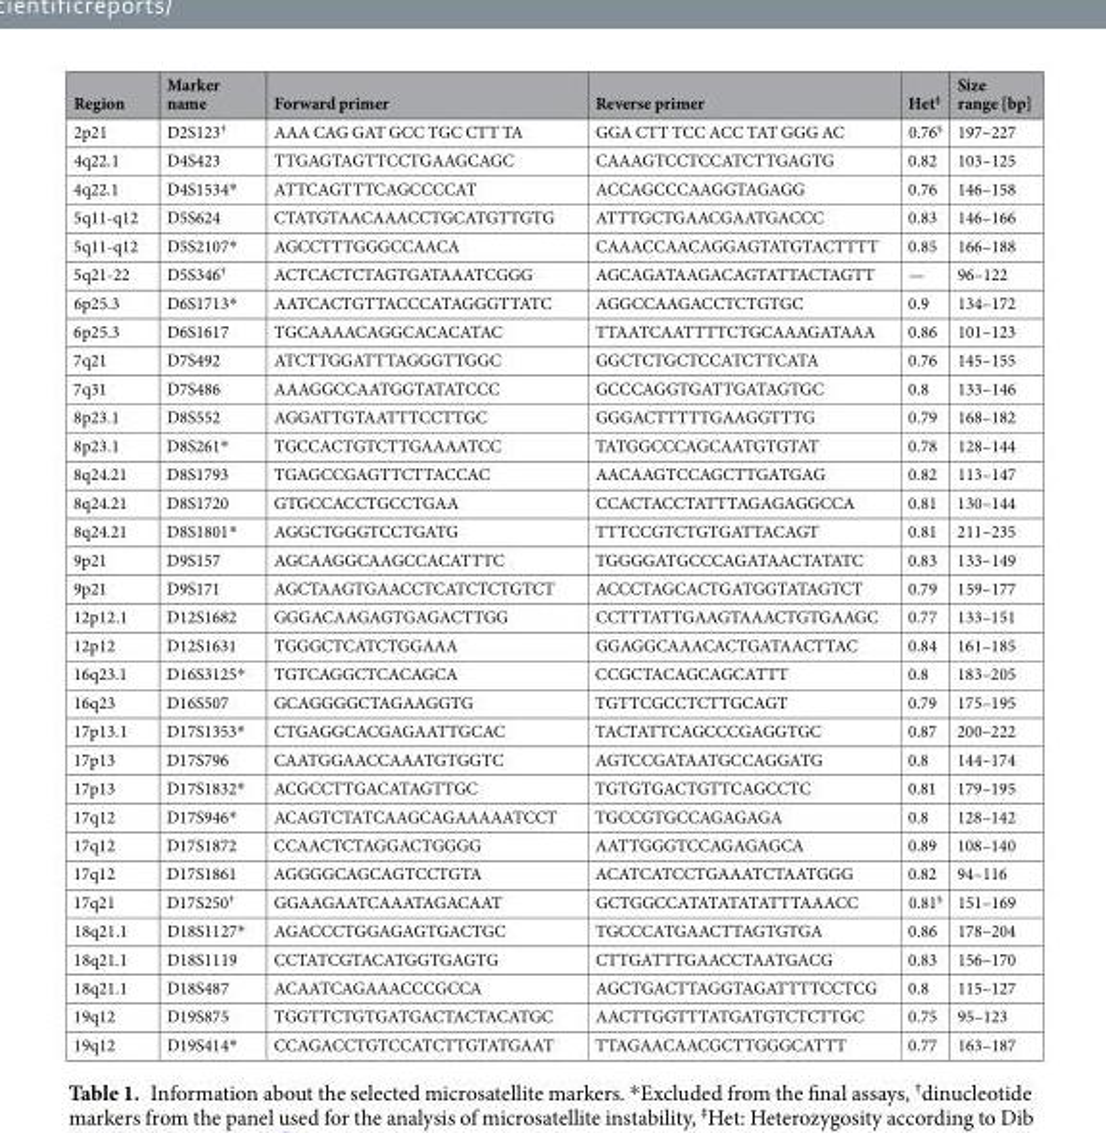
<table><thead><tr><td>Region</td><td>Marker name</td><td>Forward primer</td><td>Reverse primer</td><td>Het<sup>‡</sup></td><td>Size range [bp]</td></tr></thead><tbody><tr><td>2p21</td><td>D2S123<sup>†</sup></td><td>AAA CAG GAT GCC TGC CTT TA</td><td>GGA CTT TCC ACC TAT GGG AC</td><td>0.76<sup>§</sup></td><td>197–227</td></tr><tr><td>4q22.1</td><td>D4S423</td><td>TTGAGTAGTTCCTGAAGCAGC</td><td>CAAAGTCCTCCATCTTGAGTG</td><td>0.82</td><td>103–125</td></tr><tr><td>4q22.1</td><td>D4S1534*</td><td>ATTCAGTTTCAGCCCCAT</td><td>ACCAGCCCAAGGTAGAGG</td><td>0.76</td><td>146–158</td></tr><tr><td>5q11-q12</td><td>D5S624</td><td>CTATGTAACAAACCTGCATGTTGTG</td><td>ATTTGCTGAACGAATGACCC</td><td>0.83</td><td>146–166</td></tr><tr><td>5q11-q12</td><td>D5S2107*</td><td>AGCCTTTGGGCCAACA</td><td>CAAACCAACAGGAGTATGTACTTTT</td><td>0.85</td><td>166–188</td></tr><tr><td>5q21-22</td><td>D5S346<sup>†</sup></td><td>ACTCACTCTAGTGATAAATCGGG</td><td>AGCAGATAAGACAGTATTACTAGTT</td><td>—</td><td>96–122</td></tr><tr><td>6p25.3</td><td>D6S1713*</td><td>AATCACTGTTACCCATAGGGTTATC</td><td>AGGCCAAGACCTCTGTGC</td><td>0.9</td><td>134–172</td></tr><tr><td>6p25.3</td><td>D6S1617</td><td>TGCAAAACAGGCACACATAC</td><td>TTAATCAATTTTCTGCAAAGATAAA</td><td>0.86</td><td>101–123</td></tr><tr><td>7q21</td><td>D7S492</td><td>ATCTTGGATTTAGGGTTGGC</td><td>GGCTCTGCTCCATCTTCATA</td><td>0.76</td><td>145–155</td></tr><tr><td>7q31</td><td>D7S486</td><td>AAAGGCCAATGGTATATCCC</td><td>GCCCAGGTGATTGATAGTGC</td><td>0.8</td><td>133–146</td></tr><tr><td>8p23.1</td><td>D8S552</td><td>AGGATTGTAATTTCCTTGC</td><td>GGGACTTTTTGAAGGTTTG</td><td>0.79</td><td>168–182</td></tr><tr><td>8p23.1</td><td>D8S261*</td><td>TGCCACTGTCTTGAAAATCC</td><td>TATGGCCCAGCAATGTGTAT</td><td>0.78</td><td>128–144</td></tr><tr><td>8q24.21</td><td>D8S1793</td><td>TGAGCCGAGTTCTTACCAC</td><td>AACAAGTCCAGCTTGATGAG</td><td>0.82</td><td>113–147</td></tr><tr><td>8q24.21</td><td>D8S1720</td><td>GTGCCACCTGCCTGAA</td><td>CCACTACCTATTTAGAGAGGCCA</td><td>0.81</td><td>130–144</td></tr><tr><td>8q24.21</td><td>D8S1801*</td><td>AGGCTGGGTCCTGATG</td><td>TTTCCGTCTGTGATTACAGT</td><td>0.81</td><td>211–235</td></tr><tr><td>9p21</td><td>D9S157</td><td>AGCAAGGCAAGCCACATTTC</td><td>TGGGGATGCCCAGATAACTATATC</td><td>0.83</td><td>133–149</td></tr><tr><td>9p21</td><td>D9S171</td><td>AGCTAAGTGAACCTCATCTCTGTCT</td><td>ACCCTAGCACTGATGGTATAGTCT</td><td>0.79</td><td>159–177</td></tr><tr><td>12p12.1</td><td>D12S1682</td><td>GGGACAAGAGTGAGACTTGG</td><td>CCTTTATTGAAGTAAACTGTGAAGC</td><td>0.77</td><td>133–151</td></tr><tr><td>12p12</td><td>D12S1631</td><td>TGGGCTCATCTGGAAA</td><td>GGAGGCAAACACTGATAACTTAC</td><td>0.84</td><td>161–185</td></tr><tr><td>16q23.1</td><td>D16S3125*</td><td>TGTCAGGCTCACAGCA</td><td>CCGCTACAGCAGCATTT</td><td>0.8</td><td>183–205</td></tr><tr><td>16q23</td><td>D16S507</td><td>GCAGGGGCTAGAAGGTG</td><td>TGTTCGCCTCTTGCAGT</td><td>0.79</td><td>175–195</td></tr><tr><td>17p13.1</td><td>D17S1353*</td><td>CTGAGGCACGAGAATTGCAC</td><td>TACTATTCAGCCCGAGGTGC</td><td>0.87</td><td>200–222</td></tr><tr><td>17p13</td><td>D17S796</td><td>CAATGGAACCAAATGTGGTC</td><td>AGTCCGATAATGCCAGGATG</td><td>0.8</td><td>144–174</td></tr><tr><td>17p13</td><td>D17S1832*</td><td>ACGCCTTGACATAGTTGC</td><td>TGTGTGACTGTTCAGCCTC</td><td>0.81</td><td>179–195</td></tr><tr><td>17q12</td><td>D17S946*</td><td>ACAGTCTATCAAGCAGAAAAATCCT</td><td>TGCCGTGCCAGAGAGA</td><td>0.8</td><td>128–142</td></tr><tr><td>17q12</td><td>D17S1872</td><td>CCAACTCTAGGACTGGGG</td><td>AATTGGGTCCAGAGAGCA</td><td>0.89</td><td>108–140</td></tr><tr><td>17q12</td><td>D17S1861</td><td>AGGGGCAGCAGTCCTGTA</td><td>ACATCATCCTGAAATCTAATGGG</td><td>0.82</td><td>94–116</td></tr><tr><td>17q21</td><td>D17S250<sup>†</sup></td><td>GGAAGAATCAAATAGACAAT</td><td>GCTGGCCATATATATATTTAAACC</td><td>0.81<sup>§</sup></td><td>151–169</td></tr><tr><td>18q21.1</td><td>D18S1127*</td><td>AGACCCTGGAGAGTGACTGC</td><td>TGCCCATGAACTTAGTGTGA</td><td>0.86</td><td>178–204</td></tr><tr><td>18q21.1</td><td>D18S1119</td><td>CCTATCGTACATGGTGAGTG</td><td>CTTGATTTGAACCTAATGACG</td><td>0.83</td><td>156–170</td></tr><tr><td>18q21.1</td><td>D18S487</td><td>ACAATCAGAAACCCGCCA</td><td>AGCTGACTTAGGTAGATTTTCCTCG</td><td>0.8</td><td>115–127</td></tr><tr><td>19q12</td><td>D19S875</td><td>TGGTTCTGTGATGACTACTACATGC</td><td>AACTTGGTTTATGATGTCTCTTGC</td><td>0.75</td><td>95–123</td></tr><tr><td>19q12</td><td>D19S414*</td><td>CCAGACCTGTCCATCTTGTATGAAT</td><td>TTAGAACAACGCTTGGGCATTT</td><td>0.77</td><td>163–187</td></tr></tbody></table>